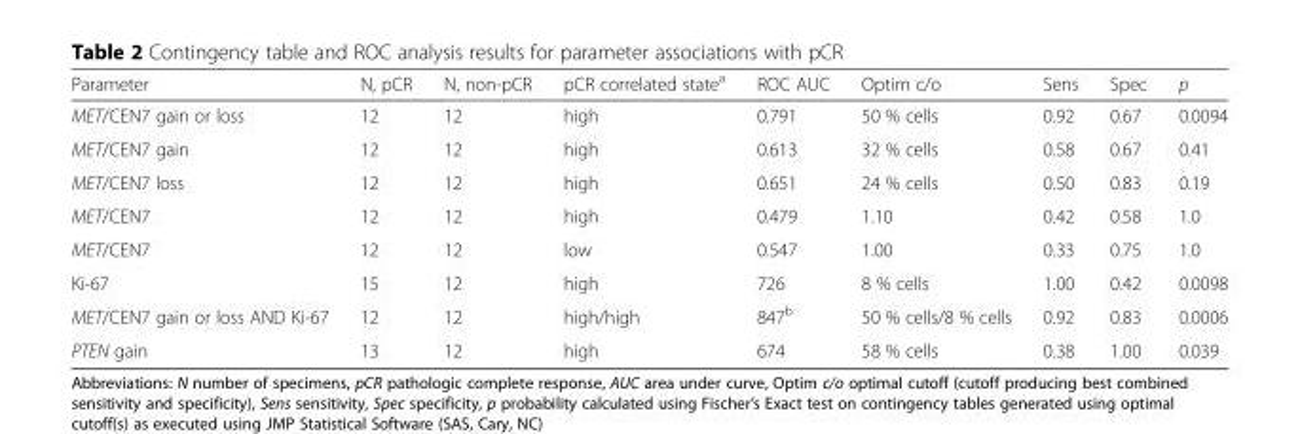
<table><thead><tr><td>Parameter</td><td>N, pCR</td><td>N, non-pCR</td><td>pCR correlated state<sup>a</sup></td><td>ROC AUC</td><td>Optim c/o</td><td>Sens</td><td>Spec</td><td>p</td></tr></thead><tbody><tr><td>MET/CEN7 gain or loss</td><td>12</td><td>12</td><td>high</td><td>0.791</td><td>50 % cells</td><td>0.92</td><td>0.67</td><td>0.0094</td></tr><tr><td>MET/CEN7 gain</td><td>12</td><td>12</td><td>high</td><td>0.613</td><td>32 % cells</td><td>0.58</td><td>0.67</td><td>0.41</td></tr><tr><td>MET/CEN7 loss</td><td>12</td><td>12</td><td>high</td><td>0.651</td><td>24 % cells</td><td>0.50</td><td>0.83</td><td>0.19</td></tr><tr><td>MET/CEN7</td><td>12</td><td>12</td><td>high</td><td>0.479</td><td>1.10</td><td>0.42</td><td>0.58</td><td>1.0</td></tr><tr><td>MET/CEN7</td><td>12</td><td>12</td><td>low</td><td>0.547</td><td>1.00</td><td>0.33</td><td>0.75</td><td>1.0</td></tr><tr><td>Ki-67</td><td>15</td><td>12</td><td>high</td><td>726</td><td>8 % cells</td><td>1.00</td><td>0.42</td><td>0.0098</td></tr><tr><td>MET/CEN7 gain or loss AND Ki-67</td><td>12</td><td>12</td><td>high/high</td><td>847<sup>b</sup></td><td>50 % cells/8 % cells</td><td>0.92</td><td>0.83</td><td>0.0006</td></tr><tr><td>PTEN gain</td><td>13</td><td>12</td><td>high</td><td>674</td><td>58 % cells</td><td>0.38</td><td>1.00</td><td>0.039</td></tr></tbody></table>